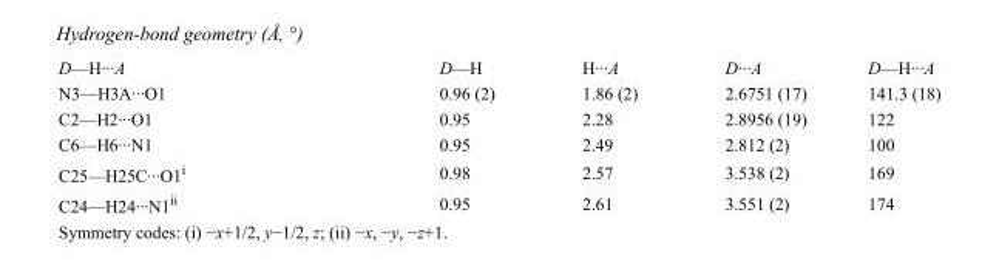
<table><tbody><tr><td>D—H···A</td><td>D—H</td><td>H···A</td><td>D···A</td><td>D—H···A</td></tr><tr><td>N3—H3A···O1</td><td>0.96 (2)</td><td>1.86 (2)</td><td>2.6751 (17)</td><td>141.3 (18)</td></tr><tr><td>C2—H2···O1</td><td>0.95</td><td>2.28</td><td>2.8956 (19)</td><td>122</td></tr><tr><td>C6—H6···N1</td><td>0.95</td><td>2.49</td><td>2.812 (2)</td><td>100</td></tr><tr><td>C25—H25C···O1<sup>i</sup></td><td>0.98</td><td>2.57</td><td>3.538 (2)</td><td>169</td></tr><tr><td>C24—H24···N1<sup>ii</sup></td><td>0.95</td><td>2.61</td><td>3.551 (2)</td><td>174</td></tr></tbody></table>